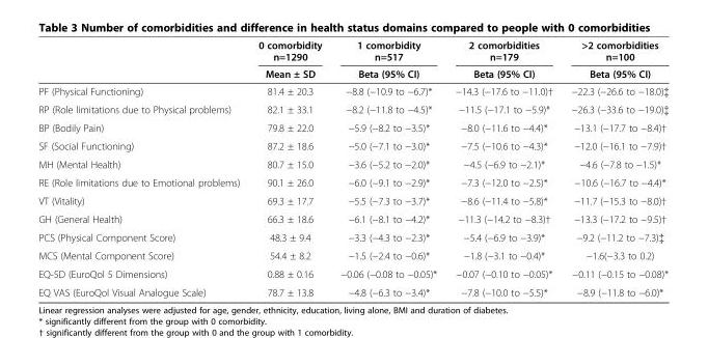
<table><thead><tr><td rowspan="2"></td><td rowspan="2">0 comorbidity n=1290 Mean ± SD</td><td rowspan="2">1 comorbidity n=517 Beta (95% CI)</td><td rowspan="2">2 comorbidities n=179 Beta (95% CI)</td><td rowspan="2">&gt;2 comorbidities n=100 Beta (95% CI)</td></tr><tr></tr></thead><tbody><tr><td>PF (Physical Functioning)</td><td>81.4 ± 20.3</td><td>−8.8 (−10.9 to −6.7)*</td><td>−14.3 (−17.6 to −11.0)†</td><td>−22.3 (−26.6 to −18.0)‡</td></tr><tr><td>RP (Role limitations due to Physical problems)</td><td>82.1 ± 33.1</td><td>−8.2 (−11.8 to −4.5)*</td><td>−11.5 (−17.1 to −5.9)*</td><td>−26.3 (−33.6 to −19.0)‡</td></tr><tr><td>BP (Bodily Pain)</td><td>79.8 ± 22.0</td><td>−5.9 (−8.2 to −3.5)*</td><td>−8.0 (−11.6 to −4.4)*</td><td>−13.1 (−17.7 to −8.4)†</td></tr><tr><td>SF (Social Functioning)</td><td>87.2 ± 18.6</td><td>−5.0 (−7.1 to −3.0)*</td><td>−7.5 (−10.6 to −4.3)*</td><td>−12.0 (−16.1 to −7.9)†</td></tr><tr><td>MH (Mental Health)</td><td>80.7 ± 15.0</td><td>−3.6 (−5.2 to −2.0)*</td><td>−4.5 (−6.9 to −2.1)*</td><td>−4.6 (−7.8 to −1.5)*</td></tr><tr><td>RE (Role limitations due to Emotional problems)</td><td>90.1 ± 26.0</td><td>−6.0 (−9.1 to −2.9)*</td><td>−7.3 (−12.0 to −2.5)*</td><td>−10.6 (−16.7 to −4.4)*</td></tr><tr><td>VT (Vitality)</td><td>69.3 ± 17.7</td><td>−5.5 (−7.3 to −3.7)*</td><td>−8.6 (−11.4 to −5.8)*</td><td>−11.7 (−15.3 to −8.0)†</td></tr><tr><td>GH (General Health)</td><td>66.3 ± 18.6</td><td>−6.1 (−8.1 to −4.2)*</td><td>−11.3 (−14.2 to −8.3)†</td><td>−13.3 (−17.2 to −9.5)†</td></tr><tr><td>PCS (Physical Component Score)</td><td>48.3 ± 9.4</td><td>−3.3 (−4.3 to −2.3)*</td><td>−5.4 (−6.9 to −3.9)*</td><td>−9.2 (−11.2 to −7.3)‡</td></tr><tr><td>MCS (Mental Component Score)</td><td>54.4 ± 8.2</td><td>−1.5 (−2.4 to −0.6)*</td><td>−1.8 (−3.1 to −0.4)*</td><td>−1.6(−3.3 to 0.2)</td></tr><tr><td>EQ-5D (EuroQol 5 Dimensions)</td><td>0.88 ± 0.16</td><td>−0.06 (−0.08 to −0.05)*</td><td>−0.07 (−0.10 to −0.05)*</td><td>−0.11 (−0.15 to −0.08)*</td></tr><tr><td>EQ VAS (EuroQol Visual Analogue Scale)</td><td>78.7 ± 13.8</td><td>−4.8 (−6.3 to −3.4)*</td><td>−7.8 (−10.0 to −5.5)*</td><td>−8.9 (−11.8 to −6.0)*</td></tr></tbody></table>